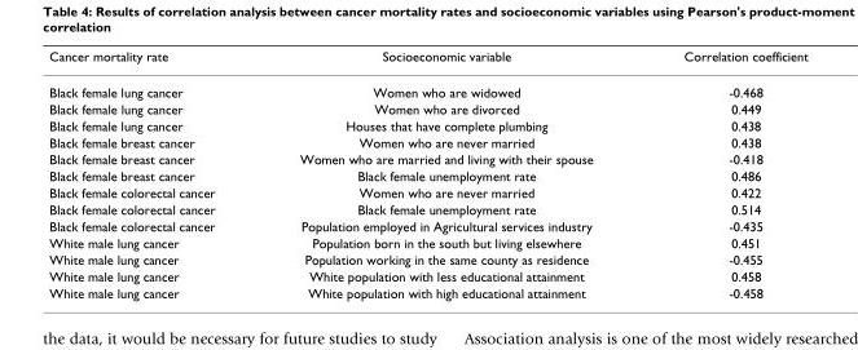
<table><thead><tr><td>Cancer mortality rate</td><td>Socioeconomic variable</td><td>Correlation coefficient</td></tr></thead><tbody><tr><td>Black female lung cancer</td><td>Women who are widowed</td><td>-0.468</td></tr><tr><td>Black female lung cancer</td><td>Women who are divorced</td><td>0.449</td></tr><tr><td>Black female lung cancer</td><td>Houses that have complete plumbing</td><td>0.438</td></tr><tr><td>Black female breast cancer</td><td>Women who are never married</td><td>0.438</td></tr><tr><td>Black female breast cancer</td><td>Women who are married and living with their spouse</td><td>-0.418</td></tr><tr><td>Black female breast cancer</td><td>Black female unemployment rate</td><td>0.486</td></tr><tr><td>Black female colorectal cancer</td><td>Women who are never married</td><td>0.422</td></tr><tr><td>Black female colorectal cancer</td><td>Black female unemployment rate</td><td>0.514</td></tr><tr><td>Black female colorectal cancer</td><td>Population employed in Agricultural services industry</td><td>-0.435</td></tr><tr><td>White male lung cancer</td><td>Population born in the south but living elsewhere</td><td>0.451</td></tr><tr><td>White male lung cancer</td><td>Population working in the same county as residence</td><td>-0.455</td></tr><tr><td>White male lung cancer</td><td>White population with less educational attainment</td><td>0.458</td></tr><tr><td>White male lung cancer</td><td>White population with high educational attainment</td><td>-0.458</td></tr></tbody></table>